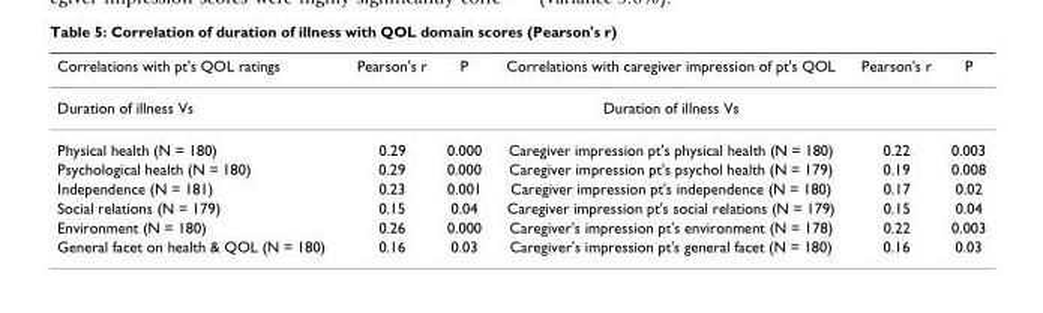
<table><thead><tr><td>Correlations with pt&#x27;s QOL ratings</td><td>Pearson&#x27;s r</td><td>P</td><td>Correlations with caregiver impression of pt&#x27;s QOL</td><td>Pearson&#x27;s r</td><td>P</td></tr></thead><tbody><tr><td>Duration of illness Vs</td><td></td><td></td><td>Duration of illness Vs</td><td></td><td></td></tr><tr><td>Physical health (N = 180)</td><td>0.29</td><td>0.000</td><td>Caregiver impression pt&#x27;s physical health (N = 180)</td><td>0.22</td><td>0.003</td></tr><tr><td>Psychological health (N = 180)</td><td>0.29</td><td>0.000</td><td>Caregiver impression pt&#x27;s psychol health (N = 179)</td><td>0.19</td><td>0.008</td></tr><tr><td>Independence (N = 181)</td><td>0.23</td><td>0.001</td><td>Caregiver impression pt&#x27;s independence (N = 180)</td><td>0.17</td><td>0.02</td></tr><tr><td>Social relations (N = 179)</td><td>0.15</td><td>0.04</td><td>Caregiver impression pt&#x27;s social relations (N = 179)</td><td>0.15</td><td>0.04</td></tr><tr><td>Environment (N = 180)</td><td>0.26</td><td>0.000</td><td>Caregiver&#x27;s impression pt&#x27;s environment (N = 178)</td><td>0.22</td><td>0.003</td></tr><tr><td>General facet on health &amp; QOL (N = 180)</td><td>0.16</td><td>0.03</td><td>Caregiver&#x27;s impression pt&#x27;s general facet (N = 180)</td><td>0.16</td><td>0.03</td></tr></tbody></table>